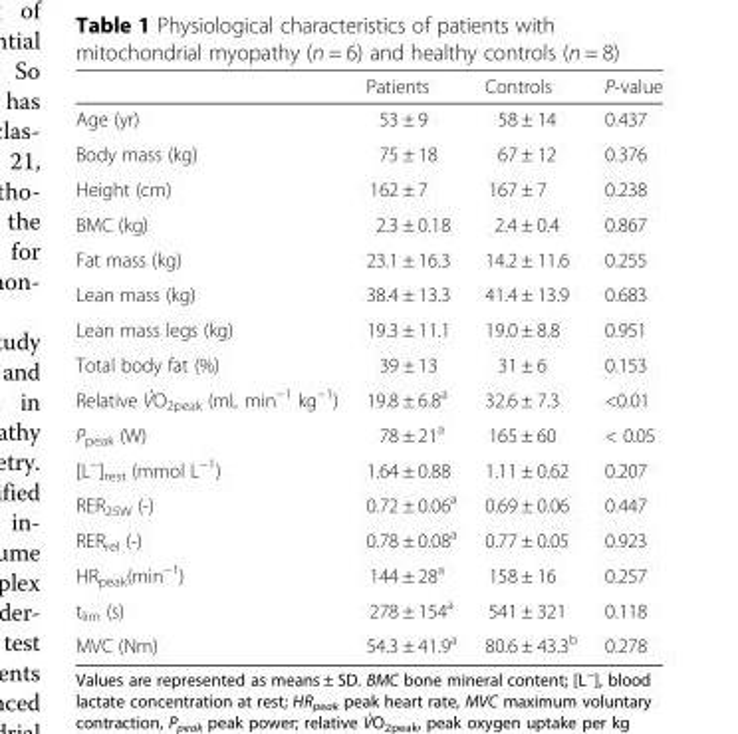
<table><thead><tr><td></td><td>Patients</td><td>Controls</td><td>P-value</td></tr></thead><tbody><tr><td>Age (yr)</td><td>53 ± 9</td><td>58 ± 14</td><td>0.437</td></tr><tr><td>Body mass (kg)</td><td>75 ± 18</td><td>67 ± 12</td><td>0.376</td></tr><tr><td>Height (cm)</td><td>162 ± 7</td><td>167 ± 7</td><td>0.238</td></tr><tr><td>BMC (kg)</td><td>2.3 ± 0.18</td><td>2.4 ± 0.4</td><td>0.867</td></tr><tr><td>Fat mass (kg)</td><td>23.1 ± 16.3</td><td>14.2 ± 11.6</td><td>0.255</td></tr><tr><td>Lean mass (kg)</td><td>38.4 ± 13.3</td><td>41.4 ± 13.9</td><td>0.683</td></tr><tr><td>Lean mass legs (kg)</td><td>19.3 ± 11.1</td><td>19.0 ± 8.8</td><td>0.951</td></tr><tr><td>Total body fat (%)</td><td>39 ± 13</td><td>31 ± 6</td><td>0.153</td></tr><tr><td>Relative V̇O<sub>2peak</sub> (mL min<sup>−1</sup> kg<sup>−1</sup>)</td><td>19.8 ± 6.8<sup>a</sup></td><td>32.6 ± 7.3</td><td>&lt;0.01</td></tr><tr><td>P<sub>peak</sub> (W)</td><td>78 ± 21<sup>a</sup></td><td>165 ± 60</td><td>&lt; 0.05</td></tr><tr><td>[L<sup>−</sup>]<sub>rest</sub> (mmol L<sup>−1</sup>)</td><td>1.64 ± 0.88</td><td>1.11 ± 0.62</td><td>0.207</td></tr><tr><td>RER<sub>25W</sub> (-)</td><td>0.72 ± 0.06<sup>a</sup></td><td>0.69 ± 0.06</td><td>0.447</td></tr><tr><td>RER<sub>rel</sub> (-)</td><td>0.78 ± 0.08<sup>a</sup></td><td>0.77 ± 0.05</td><td>0.923</td></tr><tr><td>HR<sub>peak</sub>(min<sup>−1</sup>)</td><td>144 ± 28<sup>a</sup></td><td>158 ± 16</td><td>0.257</td></tr><tr><td>t<sub>lim</sub> (s)</td><td>278 ± 154<sup>a</sup></td><td>541 ± 321</td><td>0.118</td></tr><tr><td>MVC (Nm)</td><td>54.3 ± 41.9<sup>a</sup></td><td>80.6 ± 43.3<sup>b</sup></td><td>0.278</td></tr></tbody></table>